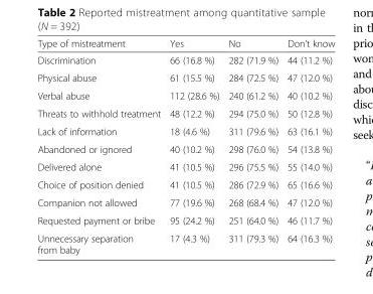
<table><thead><tr><td>Type of mistreatment</td><td>Yes</td><td>No</td><td>Don’t know</td></tr></thead><tbody><tr><td>Discrimination</td><td>66 (16.8 %)</td><td>282 (71.9 %)</td><td>44 (11.2 %)</td></tr><tr><td>Physical abuse</td><td>61 (15.5 %)</td><td>284 (72.5 %)</td><td>47 (12.0 %)</td></tr><tr><td>Verbal abuse</td><td>112 (28.6 %)</td><td>240 (61.2 %)</td><td>40 (10.2 %)</td></tr><tr><td>Threats to withhold treatment</td><td>48 (12.2 %)</td><td>294 (75.0 %)</td><td>50 (12.8 %)</td></tr><tr><td>Lack of information</td><td>18 (4.6 %)</td><td>311 (79.6 %)</td><td>63 (16.1 %)</td></tr><tr><td>Abandoned or ignored</td><td>40 (10.2 %)</td><td>298 (76.0 %)</td><td>54 (13.8 %)</td></tr><tr><td>Delivered alone</td><td>41 (10.5 %)</td><td>296 (75.5 %)</td><td>55 (14.0 %)</td></tr><tr><td>Choice of position denied</td><td>41 (10.5 %)</td><td>286 (72.9 %)</td><td>65 (16.6 %)</td></tr><tr><td>Companion not allowed</td><td>77 (19.6 %)</td><td>268 (68.4 %)</td><td>47 (12.0 %)</td></tr><tr><td>Requested payment or bribe</td><td>95 (24.2 %)</td><td>251 (64.0 %)</td><td>46 (11.7 %)</td></tr><tr><td>Unnecessary separation from baby</td><td>17 (4.3 %)</td><td>311 (79.3 %)</td><td>64 (16.3 %)</td></tr></tbody></table>